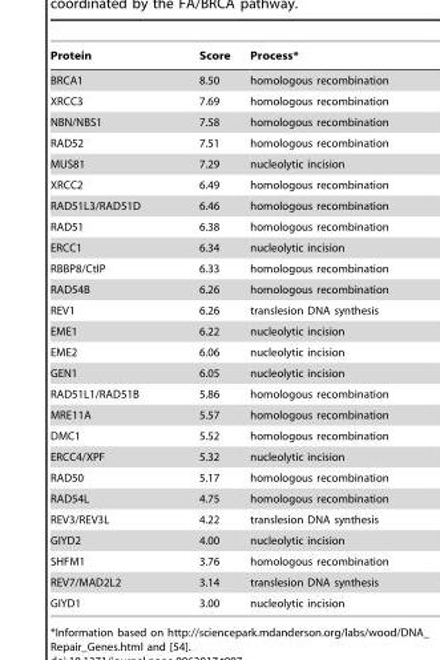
<table><thead><tr><td>Protein</td><td>Score</td><td>Process*</td></tr></thead><tbody><tr><td>BRCA1</td><td>8.50</td><td>homologous recombination</td></tr><tr><td>XRCC3</td><td>7.69</td><td>homologous recombination</td></tr><tr><td>NBN/NBS1</td><td>7.58</td><td>homologous recombination</td></tr><tr><td>RAD52</td><td>7.51</td><td>homologous recombination</td></tr><tr><td>MUS81</td><td>7.29</td><td>nucleolytic incision</td></tr><tr><td>XRCC2</td><td>6.49</td><td>homologous recombination</td></tr><tr><td>RAD51L3/RAD51D</td><td>6.46</td><td>homologous recombination</td></tr><tr><td>RAD51</td><td>6.38</td><td>homologous recombination</td></tr><tr><td>ERCC1</td><td>6.34</td><td>nucleolytic incision</td></tr><tr><td>RBBP8/CtIP</td><td>6.33</td><td>homologous recombination</td></tr><tr><td>RAD54B</td><td>6.26</td><td>homologous recombination</td></tr><tr><td>REV1</td><td>6.26</td><td>translesion DNA synthesis</td></tr><tr><td>EME1</td><td>6.22</td><td>nucleolytic incision</td></tr><tr><td>EME2</td><td>6.06</td><td>nucleolytic incision</td></tr><tr><td>GEN1</td><td>6.05</td><td>nucleolytic incision</td></tr><tr><td>RAD51L1/RAD51B</td><td>5.86</td><td>homologous recombination</td></tr><tr><td>MRE11A</td><td>5.57</td><td>homologous recombination</td></tr><tr><td>DMC1</td><td>5.52</td><td>homologous recombination</td></tr><tr><td>ERCC4/XPF</td><td>5.32</td><td>nucleolytic incision</td></tr><tr><td>RAD50</td><td>5.17</td><td>homologous recombination</td></tr><tr><td>RAD54L</td><td>4.75</td><td>homologous recombination</td></tr><tr><td>REV3/REV3L</td><td>4.22</td><td>translesion DNA synthesis</td></tr><tr><td>GIYD2</td><td>4.00</td><td>nucleolytic incision</td></tr><tr><td>SHFM1</td><td>3.76</td><td>homologous recombination</td></tr><tr><td>REV7/MAD2L2</td><td>3.14</td><td>translesion DNA synthesis</td></tr><tr><td>GIYD1</td><td>3.00</td><td>nucleolytic incision</td></tr></tbody></table>